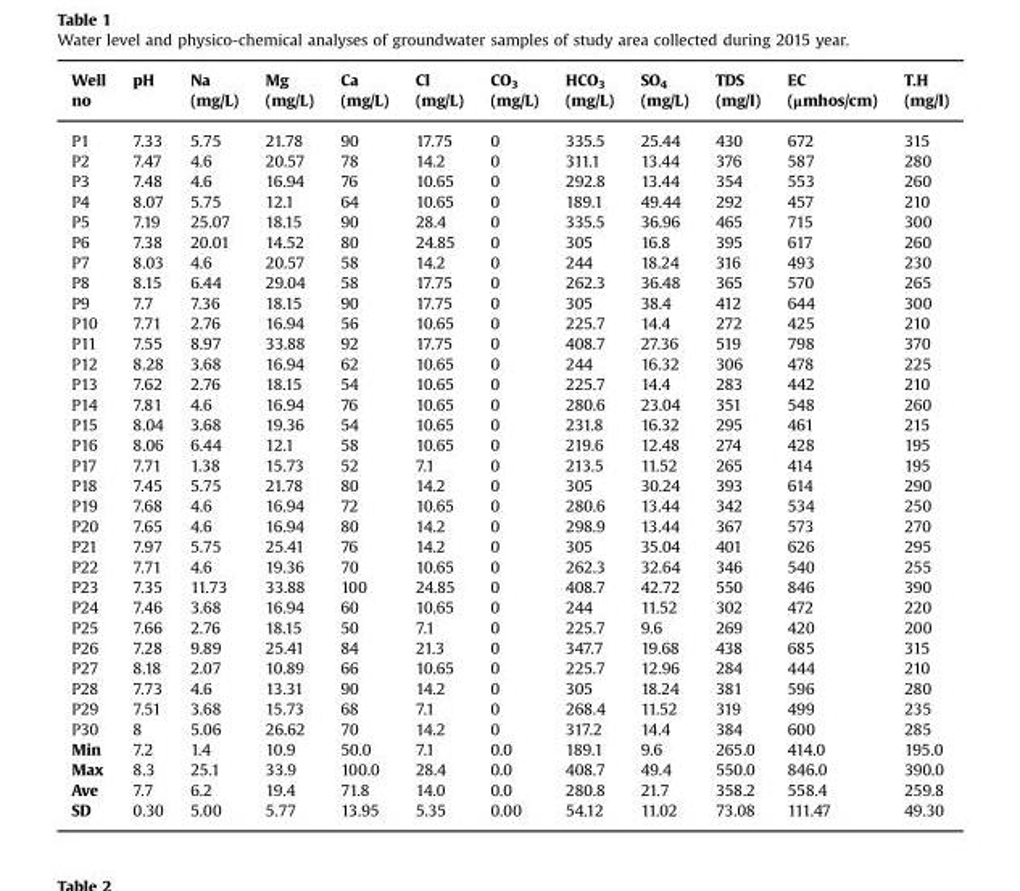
<table><thead><tr><td rowspan="2">Well no</td><td rowspan="2">pH</td><td rowspan="2">Na (mg/L)</td><td rowspan="2">Mg (mg/L)</td><td rowspan="2">Ca (mg/L)</td><td rowspan="2">Cl (mg/L)</td><td rowspan="2">CO3 (mg/L)</td><td rowspan="2">HCO3 (mg/L)</td><td rowspan="2">SO4 (mg/L)</td><td rowspan="2">TDS (mg/l)</td><td rowspan="2">EC (μmhos/cm)</td><td rowspan="2">T.H (mg/l)</td></tr><tr></tr></thead><tbody><tr><td>P1</td><td>7.33</td><td>5.75</td><td>21.78</td><td>90</td><td>17.75</td><td>0</td><td>335.5</td><td>25.44</td><td>430</td><td>672</td><td>315</td></tr><tr><td>P2</td><td>7.47</td><td>4.6</td><td>20.57</td><td>78</td><td>14.2</td><td>0</td><td>311.1</td><td>13.44</td><td>376</td><td>587</td><td>280</td></tr><tr><td>P3</td><td>7.48</td><td>4.6</td><td>16.94</td><td>76</td><td>10.65</td><td>0</td><td>292.8</td><td>13.44</td><td>354</td><td>553</td><td>260</td></tr><tr><td>P4</td><td>8.07</td><td>5.75</td><td>12.1</td><td>64</td><td>10.65</td><td>0</td><td>189.1</td><td>49.44</td><td>292</td><td>457</td><td>210</td></tr><tr><td>P5</td><td>7.19</td><td>25.07</td><td>18.15</td><td>90</td><td>28.4</td><td>0</td><td>335.5</td><td>36.96</td><td>465</td><td>715</td><td>300</td></tr><tr><td>P6</td><td>7.38</td><td>20.01</td><td>14.52</td><td>80</td><td>24.85</td><td>0</td><td>305</td><td>16.8</td><td>395</td><td>617</td><td>260</td></tr><tr><td>P7</td><td>8.03</td><td>4.6</td><td>20.57</td><td>58</td><td>14.2</td><td>0</td><td>244</td><td>18.24</td><td>316</td><td>493</td><td>230</td></tr><tr><td>P8</td><td>8.15</td><td>6.44</td><td>29.04</td><td>58</td><td>17.75</td><td>0</td><td>262.3</td><td>36.48</td><td>365</td><td>570</td><td>265</td></tr><tr><td>P9</td><td>7.7</td><td>7.36</td><td>18.15</td><td>90</td><td>17.75</td><td>0</td><td>305</td><td>38.4</td><td>412</td><td>644</td><td>300</td></tr><tr><td>P10</td><td>7.71</td><td>2.76</td><td>16.94</td><td>56</td><td>10.65</td><td>0</td><td>225.7</td><td>14.4</td><td>272</td><td>425</td><td>210</td></tr><tr><td>P11</td><td>7.55</td><td>8.97</td><td>33.88</td><td>92</td><td>17.75</td><td>0</td><td>408.7</td><td>27.36</td><td>519</td><td>798</td><td>370</td></tr><tr><td>P12</td><td>8.28</td><td>3.68</td><td>16.94</td><td>62</td><td>10.65</td><td>0</td><td>244</td><td>16.32</td><td>306</td><td>478</td><td>225</td></tr><tr><td>P13</td><td>7.62</td><td>2.76</td><td>18.15</td><td>54</td><td>10.65</td><td>0</td><td>225.7</td><td>14.4</td><td>283</td><td>442</td><td>210</td></tr><tr><td>P14</td><td>7.81</td><td>4.6</td><td>16.94</td><td>76</td><td>10.65</td><td>0</td><td>280.6</td><td>23.04</td><td>351</td><td>548</td><td>260</td></tr><tr><td>P15</td><td>8.04</td><td>3.68</td><td>19.36</td><td>54</td><td>10.65</td><td>0</td><td>231.8</td><td>16.32</td><td>295</td><td>461</td><td>215</td></tr><tr><td>P16</td><td>8.06</td><td>6.44</td><td>12.1</td><td>58</td><td>10.65</td><td>0</td><td>219.6</td><td>12.48</td><td>274</td><td>428</td><td>195</td></tr><tr><td>P17</td><td>7.71</td><td>1.38</td><td>15.73</td><td>52</td><td>7.1</td><td>0</td><td>213.5</td><td>11.52</td><td>265</td><td>414</td><td>195</td></tr><tr><td>P18</td><td>7.45</td><td>5.75</td><td>21.78</td><td>80</td><td>14.2</td><td>0</td><td>305</td><td>30.24</td><td>393</td><td>614</td><td>290</td></tr><tr><td>P19</td><td>7.68</td><td>4.6</td><td>16.94</td><td>72</td><td>10.65</td><td>0</td><td>280.6</td><td>13.44</td><td>342</td><td>534</td><td>250</td></tr><tr><td>P20</td><td>7.65</td><td>4.6</td><td>16.94</td><td>80</td><td>14.2</td><td>0</td><td>298.9</td><td>13.44</td><td>367</td><td>573</td><td>270</td></tr><tr><td>P21</td><td>7.97</td><td>5.75</td><td>25.41</td><td>76</td><td>14.2</td><td>0</td><td>305</td><td>35.04</td><td>401</td><td>626</td><td>295</td></tr><tr><td>P22</td><td>7.71</td><td>4.6</td><td>19.36</td><td>70</td><td>10.65</td><td>0</td><td>262.3</td><td>32.64</td><td>346</td><td>540</td><td>255</td></tr><tr><td>P23</td><td>7.35</td><td>11.73</td><td>33.88</td><td>100</td><td>24.85</td><td>0</td><td>408.7</td><td>42.72</td><td>550</td><td>846</td><td>390</td></tr><tr><td>P24</td><td>7.46</td><td>3.68</td><td>16.94</td><td>60</td><td>10.65</td><td>0</td><td>244</td><td>11.52</td><td>302</td><td>472</td><td>220</td></tr><tr><td>P25</td><td>7.66</td><td>2.76</td><td>18.15</td><td>50</td><td>7.1</td><td>0</td><td>225.7</td><td>9.6</td><td>269</td><td>420</td><td>200</td></tr><tr><td>P26</td><td>7.28</td><td>9.89</td><td>25.41</td><td>84</td><td>21.3</td><td>0</td><td>347.7</td><td>19.68</td><td>438</td><td>685</td><td>315</td></tr><tr><td>P27</td><td>8.18</td><td>2.07</td><td>10.89</td><td>66</td><td>10.65</td><td>0</td><td>225.7</td><td>12.96</td><td>284</td><td>444</td><td>210</td></tr><tr><td>P28</td><td>7.73</td><td>4.6</td><td>13.31</td><td>90</td><td>14.2</td><td>0</td><td>305</td><td>18.24</td><td>381</td><td>596</td><td>280</td></tr><tr><td>P29</td><td>7.51</td><td>3.68</td><td>15.73</td><td>68</td><td>7.1</td><td>0</td><td>268.4</td><td>11.52</td><td>319</td><td>499</td><td>235</td></tr><tr><td>P30</td><td>8</td><td>5.06</td><td>26.62</td><td>70</td><td>14.2</td><td>0</td><td>317.2</td><td>14.4</td><td>384</td><td>600</td><td>285</td></tr><tr><td>Min</td><td>7.2</td><td>1.4</td><td>10.9</td><td>50.0</td><td>7.1</td><td>0.0</td><td>189.1</td><td>9.6</td><td>265.0</td><td>414.0</td><td>195.0</td></tr><tr><td>Max</td><td>8.3</td><td>25.1</td><td>33.9</td><td>100.0</td><td>28.4</td><td>0.0</td><td>408.7</td><td>49.4</td><td>550.0</td><td>846.0</td><td>390.0</td></tr><tr><td>Ave</td><td>7.7</td><td>6.2</td><td>19.4</td><td>71.8</td><td>14.0</td><td>0.0</td><td>280.8</td><td>21.7</td><td>358.2</td><td>558.4</td><td>259.8</td></tr><tr><td>SD</td><td>0.30</td><td>5.00</td><td>5.77</td><td>13.95</td><td>5.35</td><td>0.00</td><td>54.12</td><td>11.02</td><td>73.08</td><td>111.47</td><td>49.30</td></tr></tbody></table>